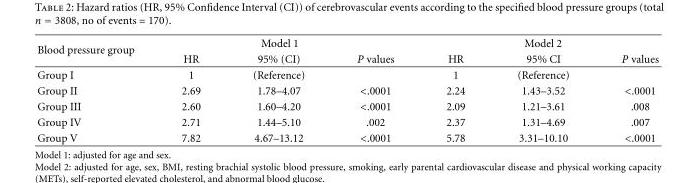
<table><thead><tr><td rowspan="2">Blood pressure group</td><td colspan="3">Model 1</td><td colspan="3">Model 2</td></tr><tr><td>HR</td><td>95% (CI)</td><td>P values</td><td>HR</td><td>95% CI</td><td>P values</td></tr></thead><tbody><tr><td>Group I</td><td>1</td><td>(Reference)</td><td></td><td>1</td><td>(Reference)</td><td></td></tr><tr><td>Group II</td><td>2.69</td><td>1.78–4.07</td><td>&lt;.0001</td><td>2.24</td><td>1.43–3.52</td><td>&lt;.0001</td></tr><tr><td>Group III</td><td>2.60</td><td>1.60–4.20</td><td>&lt;.0001</td><td>2.09</td><td>1.21–3.61</td><td>.008</td></tr><tr><td>Group IV</td><td>2.71</td><td>1.44–5.10</td><td>.002</td><td>2.37</td><td>1.31–4.69</td><td>.007</td></tr><tr><td>Group V</td><td>7.82</td><td>4.67–13.12</td><td>&lt;.0001</td><td>5.78</td><td>3.31–10.10</td><td>&lt;.0001</td></tr></tbody></table>